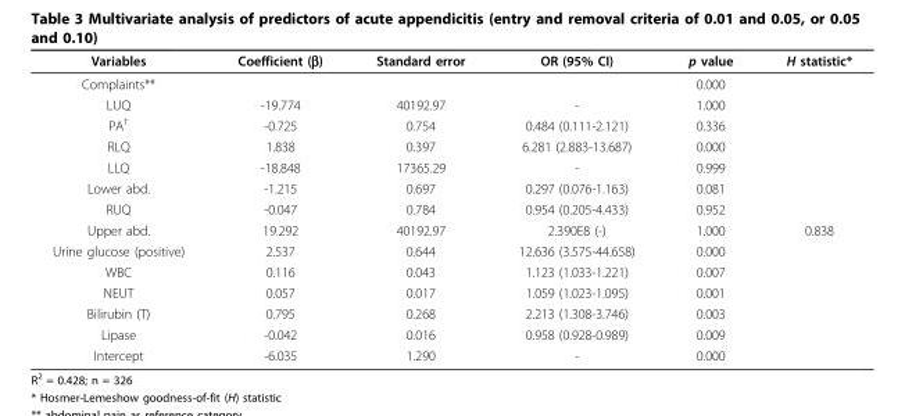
<table><thead><tr><td>Variables</td><td>Coefficient (β)</td><td>Standard error</td><td>OR (95% CI)</td><td>p value</td><td>H statistic*</td></tr></thead><tbody><tr><td>Complaints**</td><td></td><td></td><td></td><td>0.000</td><td></td></tr><tr><td>LUQ</td><td>-19.774</td><td>40192.97</td><td>-</td><td>1.000</td><td></td></tr><tr><td>PA<sup>†</sup></td><td>-0.725</td><td>0.754</td><td>0.484 (0.111-2.121)</td><td>0.336</td><td></td></tr><tr><td>RLQ</td><td>1.838</td><td>0.397</td><td>6.281 (2.883-13.687)</td><td>0.000</td><td></td></tr><tr><td>LLQ</td><td>-18.848</td><td>17365.29</td><td>-</td><td>0.999</td><td></td></tr><tr><td>Lower abd.</td><td>-1.215</td><td>0.697</td><td>0.297 (0.076-1.163)</td><td>0.081</td><td></td></tr><tr><td>RUQ</td><td>-0.047</td><td>0.784</td><td>0.954 (0.205-4.433)</td><td>0.952</td><td></td></tr><tr><td>Upper abd.</td><td>19.292</td><td>40192.97</td><td>2.390E8 (-)</td><td>1.000</td><td>0.838</td></tr><tr><td>Urine glucose (positive)</td><td>2.537</td><td>0.644</td><td>12.636 (3.575-44.658)</td><td>0.000</td><td></td></tr><tr><td>WBC</td><td>0.116</td><td>0.043</td><td>1.123 (1.033-1.221)</td><td>0.007</td><td></td></tr><tr><td>NEUT</td><td>0.057</td><td>0.017</td><td>1.059 (1.023-1.095)</td><td>0.001</td><td></td></tr><tr><td>Bilirubin (T)</td><td>0.795</td><td>0.268</td><td>2.213 (1.308-3.746)</td><td>0.003</td><td></td></tr><tr><td>Lipase</td><td>-0.042</td><td>0.016</td><td>0.958 (0.928-0.989)</td><td>0.009</td><td></td></tr><tr><td>Intercept</td><td>-6.035</td><td>1.290</td><td>-</td><td>0.000</td><td></td></tr></tbody></table>